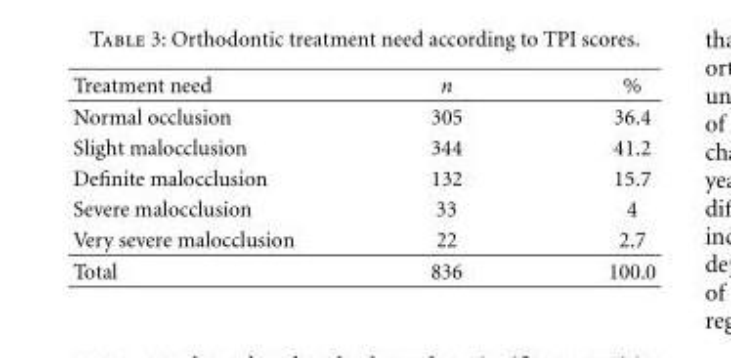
<table><thead><tr><td>Treatment need</td><td>n</td><td>%</td></tr></thead><tbody><tr><td>Normal occlusion</td><td>305</td><td>36.4</td></tr><tr><td>Slight malocclusion</td><td>344</td><td>41.2</td></tr><tr><td>Definite malocclusion</td><td>132</td><td>15.7</td></tr><tr><td>Severe malocclusion</td><td>33</td><td>4</td></tr><tr><td>Very severe malocclusion</td><td>22</td><td>2.7</td></tr><tr><td>Total</td><td>836</td><td>100.0</td></tr></tbody></table>